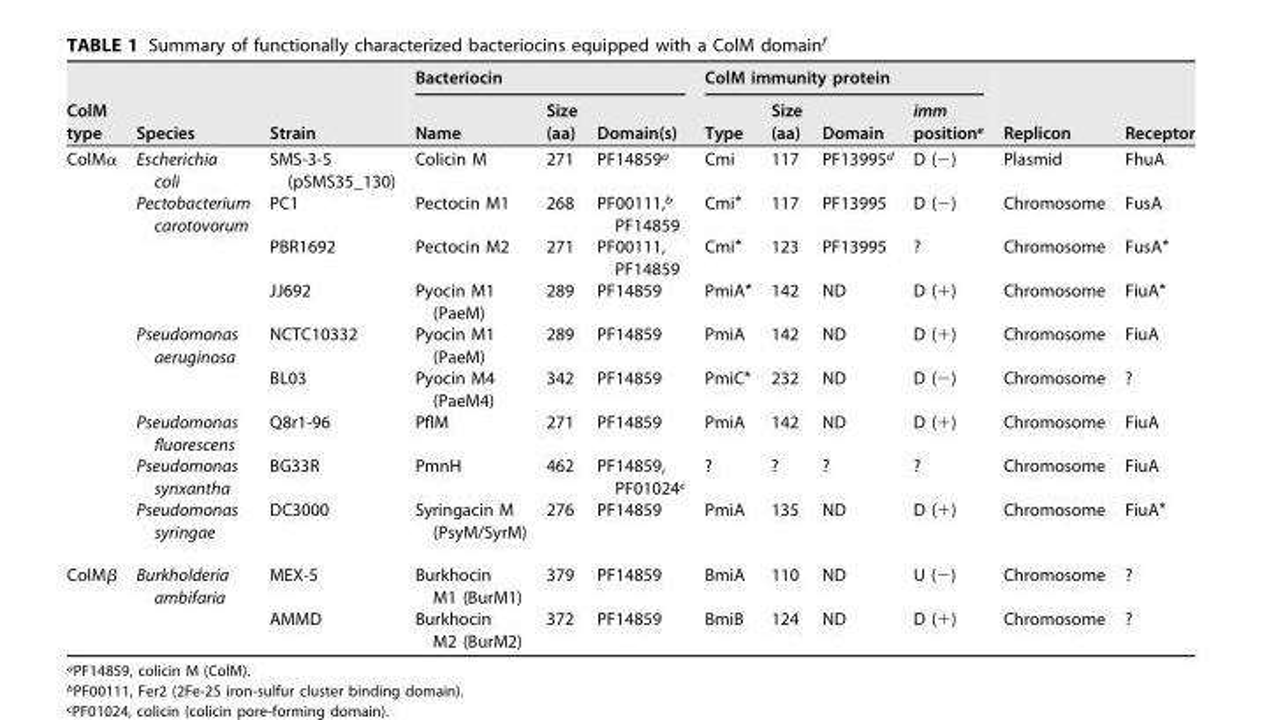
<table><thead><tr><td rowspan="2">ColM type</td><td rowspan="2">Species</td><td rowspan="2">Strain</td><td colspan="3">Bacteriocin</td><td colspan="4">ColM immunity protein</td><td rowspan="2">Replicon</td><td rowspan="2">Receptor</td></tr><tr><td>Name</td><td>Size (aa)</td><td>Domain(s)</td><td>Type</td><td>Size (aa)</td><td>Domain</td><td>imm position<sup>e</sup></td></tr></thead><tbody><tr><td rowspan="9">ColMα</td><td>Escherichia coli</td><td>SMS-3-5 (pSMS35_130)</td><td>Colicin M</td><td>271</td><td>PF14859<sup>a</sup></td><td>Cmi</td><td>117</td><td>PF13995<sup>d</sup></td><td>D (−)</td><td>Plasmid</td><td>FhuA</td></tr><tr><td>Pectobacterium carotovorum</td><td>PC1</td><td>Pectocin M1</td><td>268</td><td>PF00111,<sup>b</sup> PF14859</td><td>Cmi*</td><td>117</td><td>PF13995</td><td>D (−)</td><td>Chromosome</td><td>FusA</td></tr><tr><td></td><td>PBR1692</td><td>Pectocin M2</td><td>271</td><td>PF00111, PF14859</td><td>Cmi*</td><td>123</td><td>PF13995</td><td>?</td><td>Chromosome</td><td>FusA*</td></tr><tr><td></td><td>JJ692</td><td>Pyocin M1 (PaeM)</td><td>289</td><td>PF14859</td><td>PmiA*</td><td>142</td><td>ND</td><td>D (+)</td><td>Chromosome</td><td>FiuA*</td></tr><tr><td>Pseudomonas aeruginosa</td><td>NCTC10332</td><td>Pyocin M1 (PaeM)</td><td>289</td><td>PF14859</td><td>PmiA</td><td>142</td><td>ND</td><td>D (+)</td><td>Chromosome</td><td>FiuA</td></tr><tr><td></td><td>BL03</td><td>Pyocin M4 (PaeM4)</td><td>342</td><td>PF14859</td><td>PmiC*</td><td>232</td><td>ND</td><td>D (−)</td><td>Chromosome</td><td>?</td></tr><tr><td>Pseudomonas fluorescens</td><td>Q8r1-96</td><td>PflM</td><td>271</td><td>PF14859</td><td>PmiA</td><td>142</td><td>ND</td><td>D (+)</td><td>Chromosome</td><td>FiuA</td></tr><tr><td>Pseudomonas synxantha</td><td>BG33R</td><td>PmnH</td><td>462</td><td>PF14859, PF01024<sup>c</sup></td><td>?</td><td>?</td><td>?</td><td>?</td><td>Chromosome</td><td>FiuA</td></tr><tr><td>Pseudomonas syringae</td><td>DC3000</td><td>Syringacin M (PsyM/SyrM)</td><td>276</td><td>PF14859</td><td>PmiA</td><td>135</td><td>ND</td><td>D (+)</td><td>Chromosome</td><td>FiuA*</td></tr><tr><td rowspan="2">ColMβ</td><td>Burkholderia ambifaria</td><td>MEX-5</td><td>Burkhocin M1 (BurM1)</td><td>379</td><td>PF14859</td><td>BmiA</td><td>110</td><td>ND</td><td>U (−)</td><td>Chromosome</td><td>?</td></tr><tr><td></td><td>AMMD</td><td>Burkhocin M2 (BurM2)</td><td>372</td><td>PF14859</td><td>BmiB</td><td>124</td><td>ND</td><td>D (+)</td><td>Chromosome</td><td>?</td></tr></tbody></table>